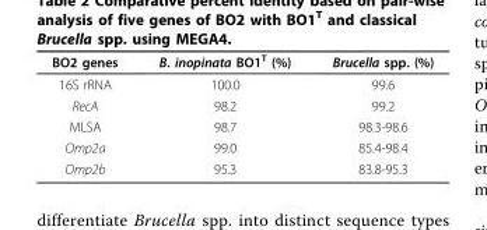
<table><thead><tr><td>BO2 genes</td><td>B. inopinata BO1<sup>T</sup> (%)</td><td>Brucella spp. (%)</td></tr></thead><tbody><tr><td>16S rRNA</td><td>100.0</td><td>99.6</td></tr><tr><td>RecA</td><td>98.2</td><td>99.2</td></tr><tr><td>MLSA</td><td>98.7</td><td>98.3-98.6</td></tr><tr><td>Omp2a</td><td>99.0</td><td>85.4-98.4</td></tr><tr><td>Omp2b</td><td>95.3</td><td>83.8-95.3</td></tr></tbody></table>